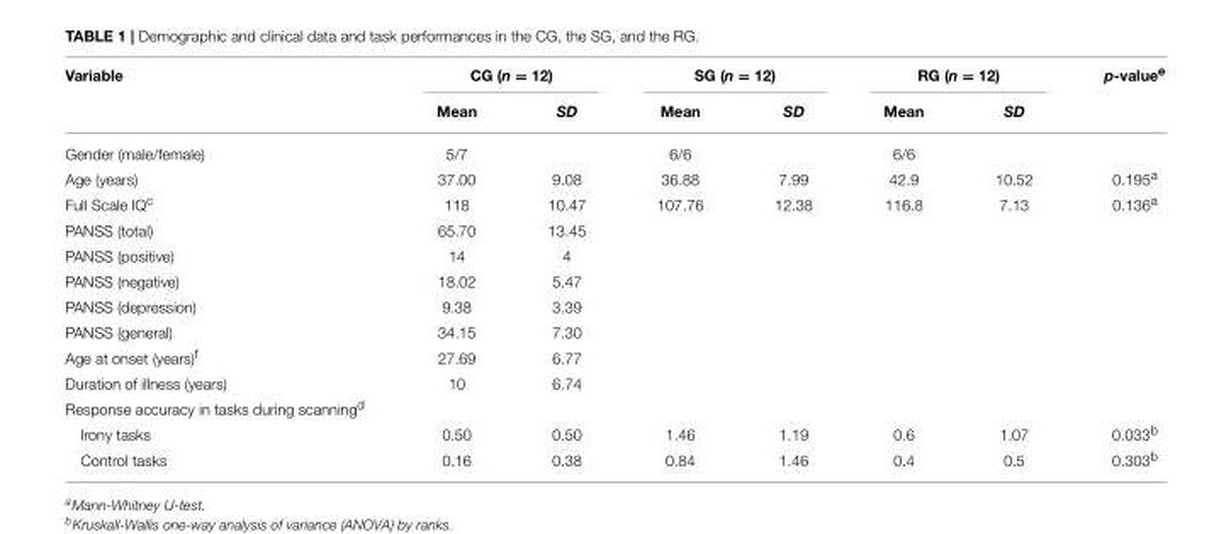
<table><thead><tr><td rowspan="2">Variable</td><td colspan="2">CG (n = 12)</td><td colspan="2">SG (n = 12)</td><td colspan="2">RG (n = 12)</td><td rowspan="2">p-value<sup>e</sup></td></tr><tr><td>Mean</td><td>SD</td><td>Mean</td><td>SD</td><td>Mean</td><td>SD</td></tr></thead><tbody><tr><td>Gender (male/female)</td><td>5/7</td><td></td><td>6/6</td><td></td><td>6/6</td><td></td><td></td></tr><tr><td>Age (years)</td><td>37.00</td><td>9.08</td><td>36.88</td><td>7.99</td><td>42.9</td><td>10.52</td><td>0.195<sup>a</sup></td></tr><tr><td>Full Scale IQ<sup>c</sup></td><td>118</td><td>10.47</td><td>107.76</td><td>12.38</td><td>116.8</td><td>7.13</td><td>0.136<sup>a</sup></td></tr><tr><td>PANSS (total)</td><td>65.70</td><td>13.45</td><td></td><td></td><td></td><td></td><td></td></tr><tr><td>PANSS (positive)</td><td>14</td><td>4</td><td></td><td></td><td></td><td></td><td></td></tr><tr><td>PANSS (negative)</td><td>18.02</td><td>5.47</td><td></td><td></td><td></td><td></td><td></td></tr><tr><td>PANSS (depression)</td><td>9.38</td><td>3.39</td><td></td><td></td><td></td><td></td><td></td></tr><tr><td>PANSS (general)</td><td>34.15</td><td>7.30</td><td></td><td></td><td></td><td></td><td></td></tr><tr><td>Age at onset (years)<sup>f</sup></td><td>27.69</td><td>6.77</td><td></td><td></td><td></td><td></td><td></td></tr><tr><td>Duration of illness (years)</td><td>10</td><td>6.74</td><td></td><td></td><td></td><td></td><td></td></tr><tr><td colspan="8">Response accuracy in tasks during scanning<sup>d</sup></td></tr><tr><td>Irony tasks</td><td>0.50</td><td>0.50</td><td>1.46</td><td>1.19</td><td>0.6</td><td>1.07</td><td>0.033<sup>b</sup></td></tr><tr><td>Control tasks</td><td>0.16</td><td>0.38</td><td>0.84</td><td>1.46</td><td>0.4</td><td>0.5</td><td>0.303<sup>b</sup></td></tr></tbody></table>